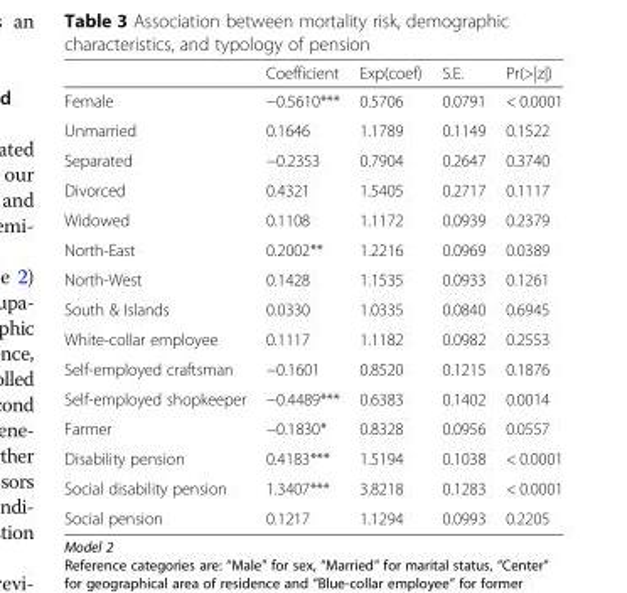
<table><thead><tr><td></td><td>Coefficient</td><td>Exp(coef)</td><td>S.E.</td><td>Pr(&gt;|z|)</td></tr></thead><tbody><tr><td>Female</td><td>−0.5610***</td><td>0.5706</td><td>0.0791</td><td>&lt; 0.0001</td></tr><tr><td>Unmarried</td><td>0.1646</td><td>1.1789</td><td>0.1149</td><td>0.1522</td></tr><tr><td>Separated</td><td>−0.2353</td><td>0.7904</td><td>0.2647</td><td>0.3740</td></tr><tr><td>Divorced</td><td>0.4321</td><td>1.5405</td><td>0.2717</td><td>0.1117</td></tr><tr><td>Widowed</td><td>0.1108</td><td>1.1172</td><td>0.0939</td><td>0.2379</td></tr><tr><td>North-East</td><td>0.2002**</td><td>1.2216</td><td>0.0969</td><td>0.0389</td></tr><tr><td>North-West</td><td>0.1428</td><td>1.1535</td><td>0.0933</td><td>0.1261</td></tr><tr><td>South &amp; Islands</td><td>0.0330</td><td>1.0335</td><td>0.0840</td><td>0.6945</td></tr><tr><td>White-collar employee</td><td>0.1117</td><td>1.1182</td><td>0.0982</td><td>0.2553</td></tr><tr><td>Self-employed craftsman</td><td>−0.1601</td><td>0.8520</td><td>0.1215</td><td>0.1876</td></tr><tr><td>Self-employed shopkeeper</td><td>−0.4489***</td><td>0.6383</td><td>0.1402</td><td>0.0014</td></tr><tr><td>Farmer</td><td>−0.1830*</td><td>0.8328</td><td>0.0956</td><td>0.0557</td></tr><tr><td>Disability pension</td><td>0.4183***</td><td>1.5194</td><td>0.1038</td><td>&lt; 0.0001</td></tr><tr><td>Social disability pension</td><td>1.3407***</td><td>3.8218</td><td>0.1283</td><td>&lt; 0.0001</td></tr><tr><td>Social pension</td><td>0.1217</td><td>1.1294</td><td>0.0993</td><td>0.2205</td></tr></tbody></table>